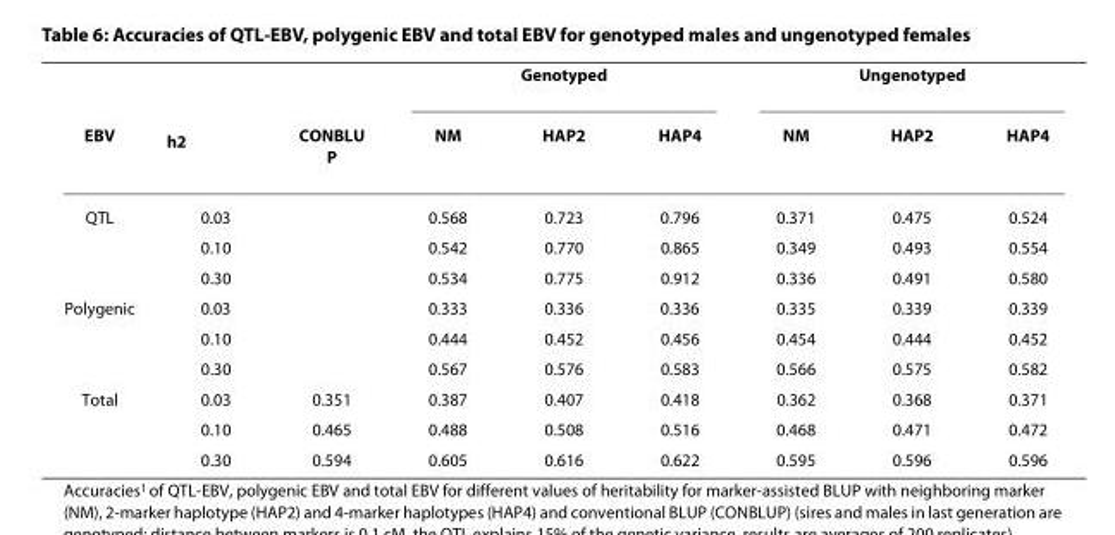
<table><thead><tr><td rowspan="2">EBV</td><td rowspan="2">h<sup>2</sup></td><td rowspan="2">CONBLU P</td><td colspan="3">Genotyped</td><td colspan="3">Ungenotyped</td></tr><tr><td>NM</td><td>HAP2</td><td>HAP4</td><td>NM</td><td>HAP2</td><td>HAP4</td></tr></thead><tbody><tr><td rowspan="3">QTL</td><td>0.03</td><td></td><td>0.568</td><td>0.723</td><td>0.796</td><td>0.371</td><td>0.475</td><td>0.524</td></tr><tr><td>0.10</td><td></td><td>0.542</td><td>0.770</td><td>0.865</td><td>0.349</td><td>0.493</td><td>0.554</td></tr><tr><td>0.30</td><td></td><td>0.534</td><td>0.775</td><td>0.912</td><td>0.336</td><td>0.491</td><td>0.580</td></tr><tr><td rowspan="3">Polygenic</td><td>0.03</td><td></td><td>0.333</td><td>0.336</td><td>0.336</td><td>0.335</td><td>0.339</td><td>0.339</td></tr><tr><td>0.10</td><td></td><td>0.444</td><td>0.452</td><td>0.456</td><td>0.454</td><td>0.444</td><td>0.452</td></tr><tr><td>0.30</td><td></td><td>0.567</td><td>0.576</td><td>0.583</td><td>0.566</td><td>0.575</td><td>0.582</td></tr><tr><td rowspan="3">Total</td><td>0.03</td><td>0.351</td><td>0.387</td><td>0.407</td><td>0.418</td><td>0.362</td><td>0.368</td><td>0.371</td></tr><tr><td>0.10</td><td>0.465</td><td>0.488</td><td>0.508</td><td>0.516</td><td>0.468</td><td>0.471</td><td>0.472</td></tr><tr><td>0.30</td><td>0.594</td><td>0.605</td><td>0.616</td><td>0.622</td><td>0.595</td><td>0.596</td><td>0.596</td></tr></tbody></table>